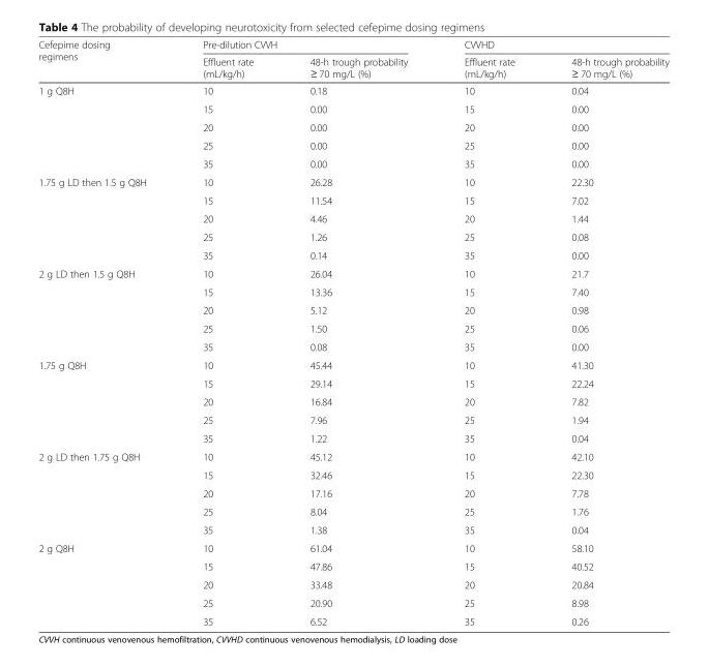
<table><thead><tr><td rowspan="2">Cefepime dosing regimens</td><td colspan="2">Pre-dilution CVVH</td><td colspan="2">CVVHD</td></tr><tr><td>Effluent rate (mL/kg/h)</td><td>48-h trough probability ≥ 70 mg/L (%)</td><td>Effluent rate (mL/kg/h)</td><td>48-h trough probability ≥ 70 mg/L (%)</td></tr></thead><tbody><tr><td rowspan="5">1 g Q8H</td><td>10</td><td>0.18</td><td>10</td><td>0.04</td></tr><tr><td>15</td><td>0.00</td><td>15</td><td>0.00</td></tr><tr><td>20</td><td>0.00</td><td>20</td><td>0.00</td></tr><tr><td>25</td><td>0.00</td><td>25</td><td>0.00</td></tr><tr><td>35</td><td>0.00</td><td>35</td><td>0.00</td></tr><tr><td rowspan="5">1.75 g LD then 1.5 g Q8H</td><td>10</td><td>26.28</td><td>10</td><td>22.30</td></tr><tr><td>15</td><td>11.54</td><td>15</td><td>7.02</td></tr><tr><td>20</td><td>4.46</td><td>20</td><td>1.44</td></tr><tr><td>25</td><td>1.26</td><td>25</td><td>0.08</td></tr><tr><td>35</td><td>0.14</td><td>35</td><td>0.00</td></tr><tr><td rowspan="5">2 g LD then 1.5 g Q8H</td><td>10</td><td>26.04</td><td>10</td><td>21.7</td></tr><tr><td>15</td><td>13.36</td><td>15</td><td>7.40</td></tr><tr><td>20</td><td>5.12</td><td>20</td><td>0.98</td></tr><tr><td>25</td><td>1.50</td><td>25</td><td>0.06</td></tr><tr><td>35</td><td>0.08</td><td>35</td><td>0.00</td></tr><tr><td rowspan="5">1.75 g Q8H</td><td>10</td><td>45.44</td><td>10</td><td>41.30</td></tr><tr><td>15</td><td>29.14</td><td>15</td><td>22.24</td></tr><tr><td>20</td><td>16.84</td><td>20</td><td>7.82</td></tr><tr><td>25</td><td>7.96</td><td>25</td><td>1.94</td></tr><tr><td>35</td><td>1.22</td><td>35</td><td>0.04</td></tr><tr><td rowspan="5">2 g LD then 1.75 g Q8H</td><td>10</td><td>45.12</td><td>10</td><td>42.10</td></tr><tr><td>15</td><td>32.46</td><td>15</td><td>22.30</td></tr><tr><td>20</td><td>17.16</td><td>20</td><td>7.78</td></tr><tr><td>25</td><td>8.04</td><td>25</td><td>1.76</td></tr><tr><td>35</td><td>1.38</td><td>35</td><td>0.04</td></tr><tr><td rowspan="5">2 g Q8H</td><td>10</td><td>61.04</td><td>10</td><td>58.10</td></tr><tr><td>15</td><td>47.86</td><td>15</td><td>40.52</td></tr><tr><td>20</td><td>33.48</td><td>20</td><td>20.84</td></tr><tr><td>25</td><td>20.90</td><td>25</td><td>8.98</td></tr><tr><td>35</td><td>6.52</td><td>35</td><td>0.26</td></tr></tbody></table>